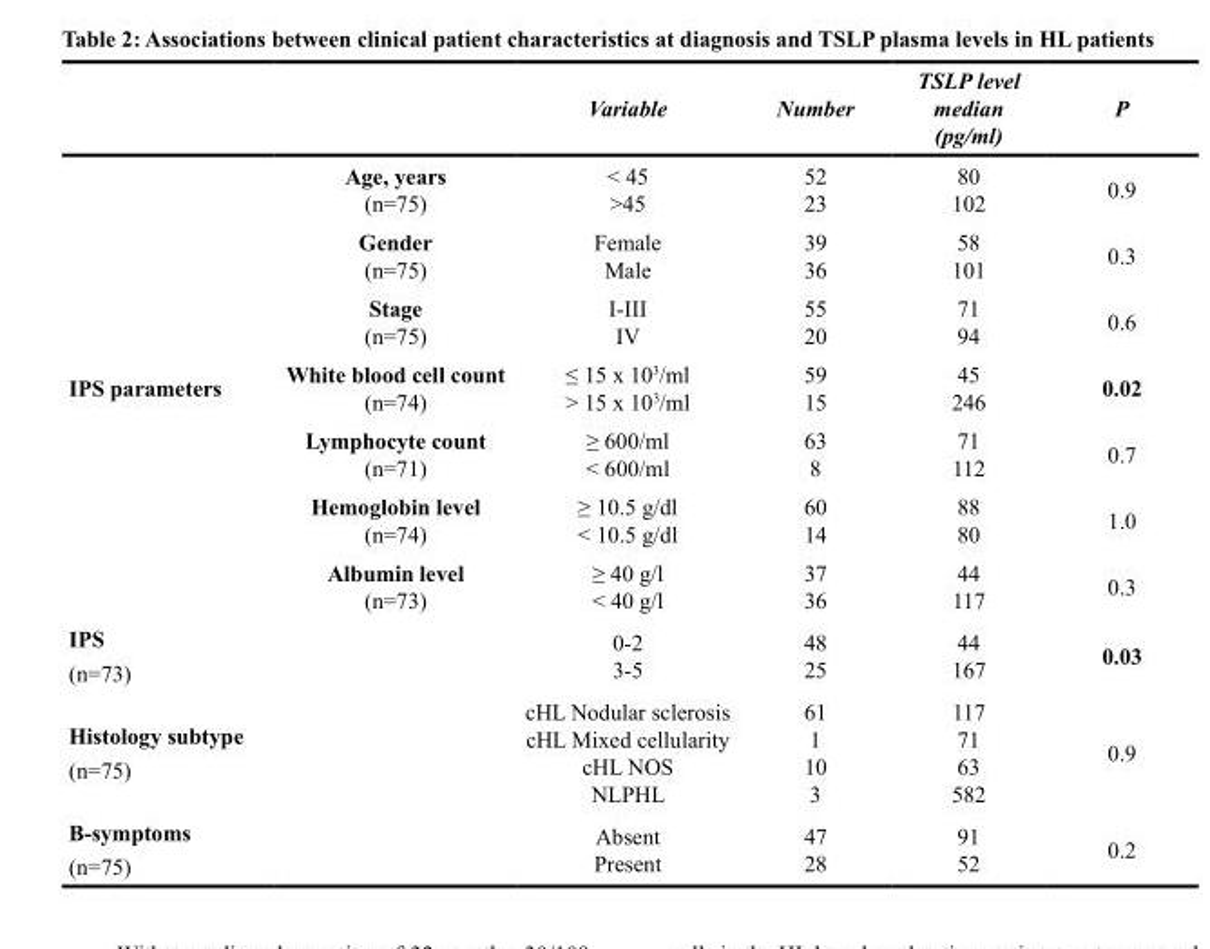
<table><thead><tr><td></td><td></td><td>Variable</td><td>Number</td><td>TSLP level median (pg/ml)</td><td>P</td></tr></thead><tbody><tr><td rowspan="7">IPS parameters</td><td>Age, years (n=75)</td><td>&lt; 45 &gt;45</td><td>52 23</td><td>80 102</td><td>0.9</td></tr><tr><td>Gender (n=75)</td><td>Female Male</td><td>39 36</td><td>58 101</td><td>0.3</td></tr><tr><td>Stage (n=75)</td><td>I-III IV</td><td>55 20</td><td>71 94</td><td>0.6</td></tr><tr><td>White blood cell count (n=74)</td><td>≤ 15 x 10<sup>3</sup>/ml &gt; 15 x 10<sup>3</sup>/ml</td><td>59 15</td><td>45 246</td><td>0.02</td></tr><tr><td>Lymphocyte count (n=71)</td><td>≥ 600/ml &lt; 600/ml</td><td>63 8</td><td>71 112</td><td>0.7</td></tr><tr><td>Hemoglobin level (n=74)</td><td>≥ 10.5 g/dl &lt; 10.5 g/dl</td><td>60 14</td><td>88 80</td><td>1.0</td></tr><tr><td>Albumin level (n=73)</td><td>≥ 40 g/l &lt; 40 g/l</td><td>37 36</td><td>44 117</td><td>0.3</td></tr><tr><td>IPS (n=73)</td><td></td><td>0-2 3-5</td><td>48 25</td><td>44 167</td><td>0.03</td></tr><tr><td>Histology subtype (n=75)</td><td></td><td>cHL Nodular sclerosis cHL Mixed cellularity cHL NOS NLPHL</td><td>61 1 10 3</td><td>117 71 63 582</td><td>0.9</td></tr><tr><td>B-symptoms (n=75)</td><td></td><td>Absent Present</td><td>47 28</td><td>91 52</td><td>0.2</td></tr></tbody></table>